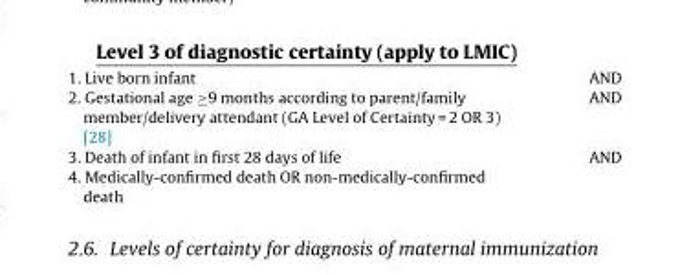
<table><tbody><tr><td>1. Live born infant</td><td>AND</td></tr><tr><td>2. Gestational age ≥9 months according to parent/family member/delivery attendant (GA Level of Certainty = 2 OR 3) [28]</td><td>AND</td></tr><tr><td>3. Death of infant in first 28 days of life</td><td>AND</td></tr><tr><td>4. Medically-confirmed death OR non-medically-confirmed death</td><td></td></tr></tbody></table>